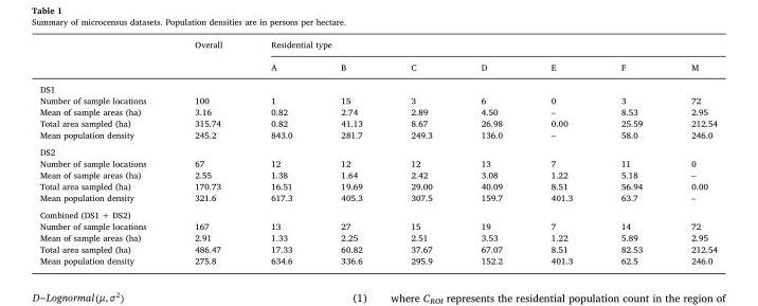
<table><thead><tr><td rowspan="2"></td><td rowspan="2">Overall</td><td colspan="7">Residential type</td></tr><tr><td>A</td><td>B</td><td>C</td><td>D</td><td>E</td><td>F</td><td>M</td></tr></thead><tbody><tr><td colspan="9">DS1</td></tr><tr><td>Number of sample locations</td><td>100</td><td>1</td><td>15</td><td>3</td><td>6</td><td>0</td><td>3</td><td>72</td></tr><tr><td>Mean of sample areas (ha)</td><td>3.16</td><td>0.82</td><td>2.74</td><td>2.89</td><td>4.50</td><td>–</td><td>8.53</td><td>2.95</td></tr><tr><td>Total area sampled (ha)</td><td>315.74</td><td>0.82</td><td>41.13</td><td>8.67</td><td>26.98</td><td>0.00</td><td>25.59</td><td>212.54</td></tr><tr><td>Mean population density</td><td>245.2</td><td>843.0</td><td>281.7</td><td>249.3</td><td>136.0</td><td>–</td><td>58.0</td><td>246.0</td></tr><tr><td colspan="9">DS2</td></tr><tr><td>Number of sample locations</td><td>67</td><td>12</td><td>12</td><td>12</td><td>13</td><td>7</td><td>11</td><td>0</td></tr><tr><td>Mean of sample areas (ha)</td><td>2.55</td><td>1.38</td><td>1.64</td><td>2.42</td><td>3.08</td><td>1.22</td><td>5.18</td><td>–</td></tr><tr><td>Total area sampled (ha)</td><td>170.73</td><td>16.51</td><td>19.69</td><td>29.00</td><td>40.09</td><td>8.51</td><td>56.94</td><td>0.00</td></tr><tr><td>Mean population density</td><td>321.6</td><td>617.3</td><td>405.3</td><td>307.5</td><td>159.7</td><td>401.3</td><td>63.7</td><td>–</td></tr><tr><td colspan="9">Combined (DS1 + DS2)</td></tr><tr><td>Number of sample locations</td><td>167</td><td>13</td><td>27</td><td>15</td><td>19</td><td>7</td><td>14</td><td>72</td></tr><tr><td>Mean of sample areas (ha)</td><td>2.91</td><td>1.33</td><td>2.25</td><td>2.51</td><td>3.53</td><td>1.22</td><td>5.89</td><td>2.95</td></tr><tr><td>Total area sampled (ha)</td><td>486.47</td><td>17.33</td><td>60.82</td><td>37.67</td><td>67.07</td><td>8.51</td><td>82.53</td><td>212.54</td></tr><tr><td>Mean population density</td><td>275.8</td><td>634.6</td><td>336.6</td><td>295.9</td><td>152.2</td><td>401.3</td><td>62.5</td><td>246.0</td></tr></tbody></table>